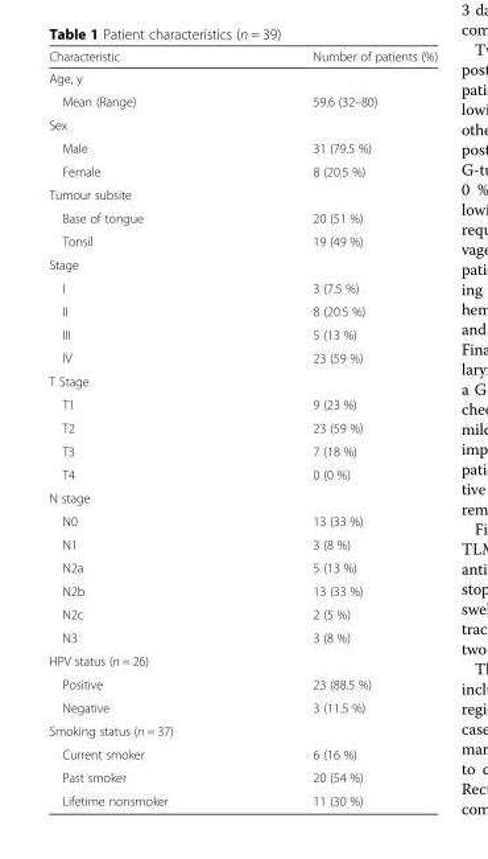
<table><thead><tr><td>Characteristic</td><td>Number of patients (%)</td></tr></thead><tbody><tr><td colspan="2">Age, y</td></tr><tr><td>Mean (Range)</td><td>59.6 (32–80)</td></tr><tr><td colspan="2">Sex</td></tr><tr><td>Male</td><td>31 (79.5 %)</td></tr><tr><td>Female</td><td>8 (20.5 %)</td></tr><tr><td colspan="2">Tumour subsite</td></tr><tr><td>Base of tongue</td><td>20 (51 %)</td></tr><tr><td>Tonsil</td><td>19 (49 %)</td></tr><tr><td colspan="2">Stage</td></tr><tr><td>I</td><td>3 (7.5 %)</td></tr><tr><td>II</td><td>8 (20.5 %)</td></tr><tr><td>III</td><td>5 (13 %)</td></tr><tr><td>IV</td><td>23 (59 %)</td></tr><tr><td colspan="2">T Stage</td></tr><tr><td>T1</td><td>9 (23 %)</td></tr><tr><td>T2</td><td>23 (59 %)</td></tr><tr><td>T3</td><td>7 (18 %)</td></tr><tr><td>T4</td><td>0 (0 %)</td></tr><tr><td colspan="2">N stage</td></tr><tr><td>N0</td><td>13 (33 %)</td></tr><tr><td>N1</td><td>3 (8 %)</td></tr><tr><td>N2a</td><td>5 (13 %)</td></tr><tr><td>N2b</td><td>13 (33 %)</td></tr><tr><td>N2c</td><td>2 (5 %)</td></tr><tr><td>N3</td><td>3 (8 %)</td></tr><tr><td colspan="2">HPV status (n = 26)</td></tr><tr><td>Positive</td><td>23 (88.5 %)</td></tr><tr><td>Negative</td><td>3 (11.5 %)</td></tr><tr><td colspan="2">Smoking status (n = 37)</td></tr><tr><td>Current smoker</td><td>6 (16 %)</td></tr><tr><td>Past smoker</td><td>20 (54 %)</td></tr><tr><td>Lifetime nonsmoker</td><td>11 (30 %)</td></tr></tbody></table>